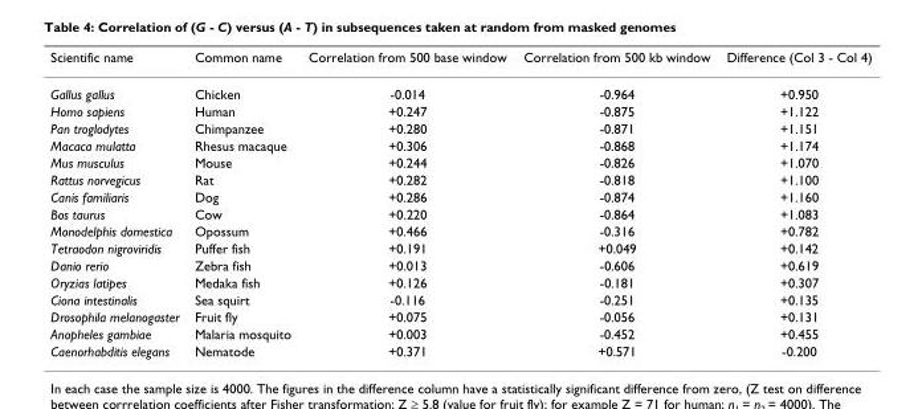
<table><thead><tr><td>Scientific name</td><td>Common name</td><td>Correlation from 500 base window</td><td>Correlation from 500 kb window</td><td>Difference (Col 3 - Col 4)</td></tr></thead><tbody><tr><td>Gallus gallus</td><td>Chicken</td><td>-0.014</td><td>-0.964</td><td>+0.950</td></tr><tr><td>Homo sapiens</td><td>Human</td><td>+0.247</td><td>-0.875</td><td>+1.122</td></tr><tr><td>Pan troglodytes</td><td>Chimpanzee</td><td>+0.280</td><td>-0.871</td><td>+1.151</td></tr><tr><td>Macaca mulatta</td><td>Rhesus macaque</td><td>+0.306</td><td>-0.868</td><td>+1.174</td></tr><tr><td>Mus musculus</td><td>Mouse</td><td>+0.244</td><td>-0.826</td><td>+1.070</td></tr><tr><td>Rattus norvegicus</td><td>Rat</td><td>+0.282</td><td>-0.818</td><td>+1.100</td></tr><tr><td>Canis familiaris</td><td>Dog</td><td>+0.286</td><td>-0.874</td><td>+1.160</td></tr><tr><td>Bos taurus</td><td>Cow</td><td>+0.220</td><td>-0.864</td><td>+1.083</td></tr><tr><td>Monodelphis domestica</td><td>Opossum</td><td>+0.466</td><td>-0.316</td><td>+0.782</td></tr><tr><td>Tetraodon nigroviridis</td><td>Puffer fish</td><td>+0.191</td><td>+0.049</td><td>+0.142</td></tr><tr><td>Danio rerio</td><td>Zebra fish</td><td>+0.013</td><td>-0.606</td><td>+0.619</td></tr><tr><td>Oryzias latipes</td><td>Medaka fish</td><td>+0.126</td><td>-0.181</td><td>+0.307</td></tr><tr><td>Ciona intestinalis</td><td>Sea squirt</td><td>-0.116</td><td>-0.251</td><td>+0.135</td></tr><tr><td>Drosophila melanogaster</td><td>Fruit fly</td><td>+0.075</td><td>-0.056</td><td>+0.131</td></tr><tr><td>Anopheles gambiae</td><td>Malaria mosquito</td><td>+0.003</td><td>-0.452</td><td>+0.455</td></tr><tr><td>Caenorhabditis elegans</td><td>Nematode</td><td>+0.371</td><td>+0.571</td><td>-0.200</td></tr></tbody></table>